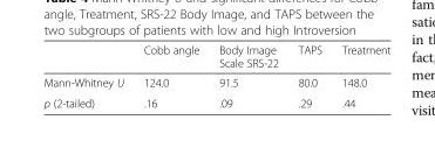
<table><thead><tr><td></td><td>Cobb angle</td><td>Body Image Scale SRS-22</td><td>TAPS</td><td>Treatment</td></tr></thead><tbody><tr><td>Mann-Whitney U</td><td>124.0</td><td>91.5</td><td>80.0</td><td>148.0</td></tr><tr><td>p (2-tailed)</td><td>.16</td><td>.09</td><td>.29</td><td>.44</td></tr></tbody></table>